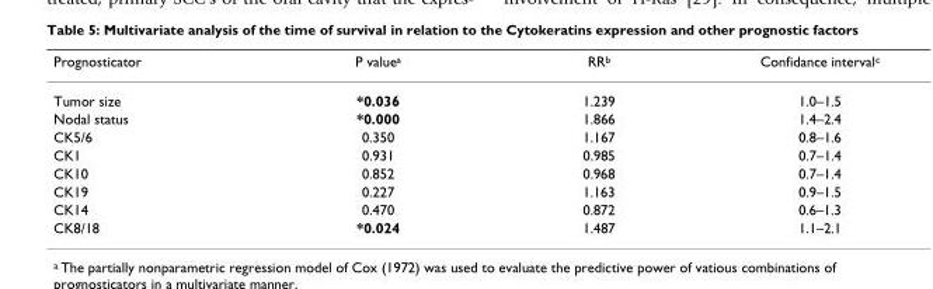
<table><thead><tr><td>Prognosticator</td><td>P valuea</td><td>RRb</td><td>Confidance intervalc</td></tr></thead><tbody><tr><td>Tumor size</td><td>*0.036</td><td>1.239</td><td>1.0–1.5</td></tr><tr><td>Nodal status</td><td>*0.000</td><td>1.866</td><td>1.4–2.4</td></tr><tr><td>CK5/6</td><td>0.350</td><td>1.167</td><td>0.8–1.6</td></tr><tr><td>CK1</td><td>0.931</td><td>0.985</td><td>0.7–1.4</td></tr><tr><td>CK10</td><td>0.852</td><td>0.968</td><td>0.7–1.4</td></tr><tr><td>CK19</td><td>0.227</td><td>1.163</td><td>0.9–1.5</td></tr><tr><td>CK14</td><td>0.470</td><td>0.872</td><td>0.6–1.3</td></tr><tr><td>CK8/18</td><td>*0.024</td><td>1.487</td><td>1.1–2.1</td></tr></tbody></table>